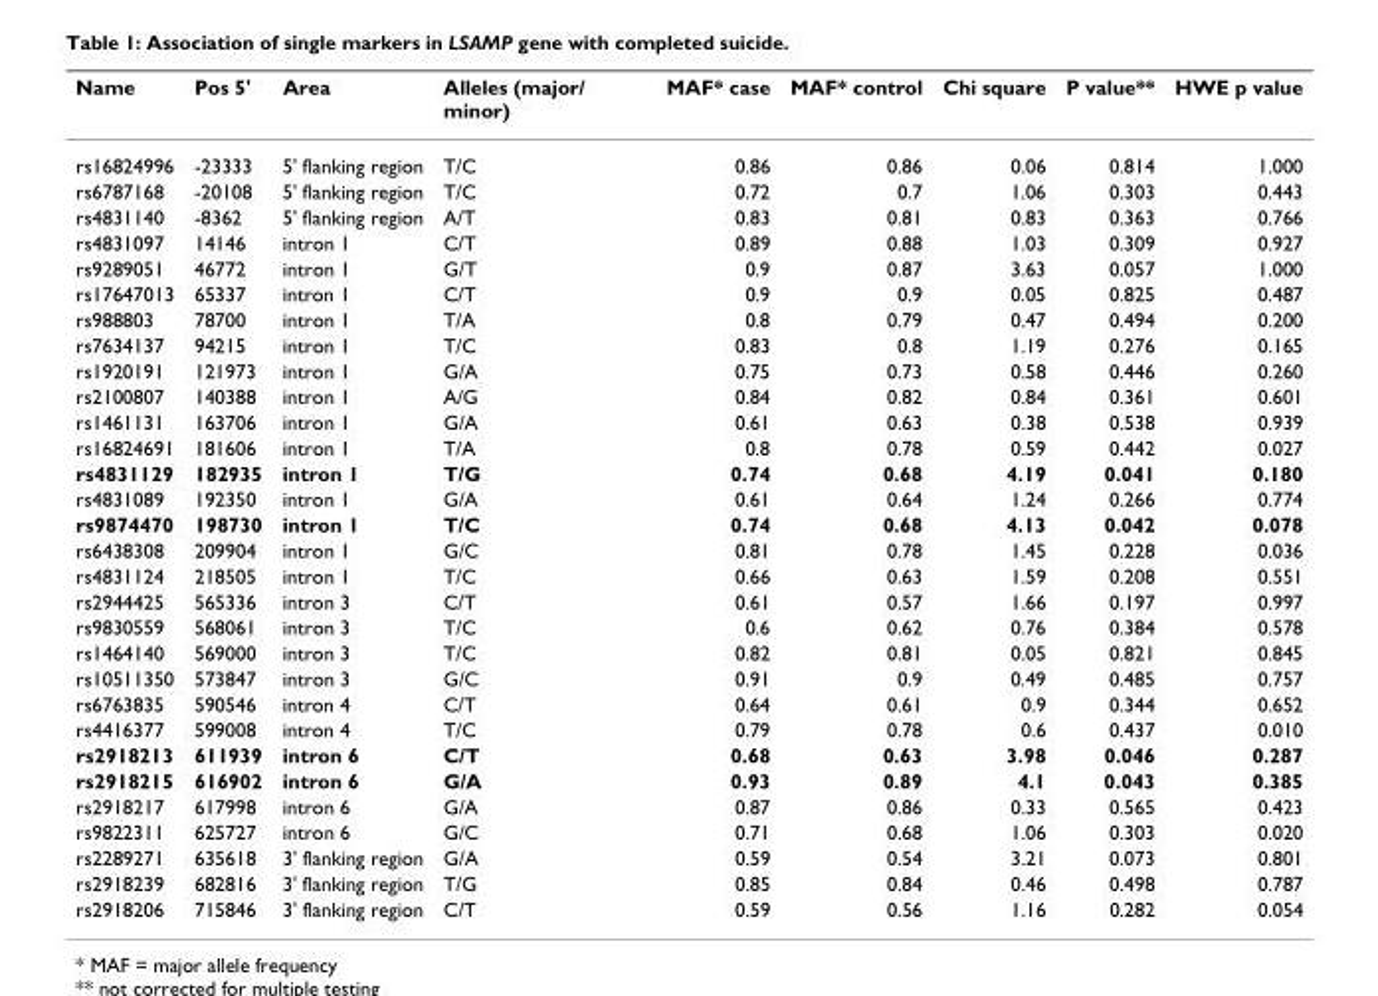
<table><thead><tr><td>Name</td><td>Pos 5&#x27;</td><td>Area</td><td>Alleles (major/ minor)</td><td>MAF* case</td><td>MAF* control</td><td>Chi square</td><td>P value**</td><td>HWE p value</td></tr></thead><tbody><tr><td>rs16824996</td><td>-23333</td><td>5&#x27; flanking region</td><td>T/C</td><td>0.86</td><td>0.86</td><td>0.06</td><td>0.814</td><td>1.000</td></tr><tr><td>rs6787168</td><td>-20108</td><td>5&#x27; flanking region</td><td>T/C</td><td>0.72</td><td>0.7</td><td>1.06</td><td>0.303</td><td>0.443</td></tr><tr><td>rs4831140</td><td>-8362</td><td>5&#x27; flanking region</td><td>A/T</td><td>0.83</td><td>0.81</td><td>0.83</td><td>0.363</td><td>0.766</td></tr><tr><td>rs4831097</td><td>14146</td><td>intron 1</td><td>C/T</td><td>0.89</td><td>0.88</td><td>1.03</td><td>0.309</td><td>0.927</td></tr><tr><td>rs9289051</td><td>46772</td><td>intron 1</td><td>G/T</td><td>0.9</td><td>0.87</td><td>3.63</td><td>0.057</td><td>1.000</td></tr><tr><td>rs17647013</td><td>65337</td><td>intron 1</td><td>C/T</td><td>0.9</td><td>0.9</td><td>0.05</td><td>0.825</td><td>0.487</td></tr><tr><td>rs988803</td><td>78700</td><td>intron 1</td><td>T/A</td><td>0.8</td><td>0.79</td><td>0.47</td><td>0.494</td><td>0.200</td></tr><tr><td>rs7634137</td><td>94215</td><td>intron 1</td><td>T/C</td><td>0.83</td><td>0.8</td><td>1.19</td><td>0.276</td><td>0.165</td></tr><tr><td>rs1920191</td><td>121973</td><td>intron 1</td><td>G/A</td><td>0.75</td><td>0.73</td><td>0.58</td><td>0.446</td><td>0.260</td></tr><tr><td>rs2100807</td><td>140388</td><td>intron 1</td><td>A/G</td><td>0.84</td><td>0.82</td><td>0.84</td><td>0.361</td><td>0.601</td></tr><tr><td>rs1461131</td><td>163706</td><td>intron 1</td><td>G/A</td><td>0.61</td><td>0.63</td><td>0.38</td><td>0.538</td><td>0.939</td></tr><tr><td>rs16824691</td><td>181606</td><td>intron 1</td><td>T/A</td><td>0.8</td><td>0.78</td><td>0.59</td><td>0.442</td><td>0.027</td></tr><tr><td>rs4831129</td><td>182935</td><td>intron 1</td><td>T/G</td><td>0.74</td><td>0.68</td><td>4.19</td><td>0.041</td><td>0.180</td></tr><tr><td>rs4831089</td><td>192350</td><td>intron 1</td><td>G/A</td><td>0.61</td><td>0.64</td><td>1.24</td><td>0.266</td><td>0.774</td></tr><tr><td>rs9874470</td><td>198730</td><td>intron 1</td><td>T/C</td><td>0.74</td><td>0.68</td><td>4.13</td><td>0.042</td><td>0.078</td></tr><tr><td>rs6438308</td><td>209904</td><td>intron 1</td><td>G/C</td><td>0.81</td><td>0.78</td><td>1.45</td><td>0.228</td><td>0.036</td></tr><tr><td>rs4831124</td><td>218505</td><td>intron 1</td><td>T/C</td><td>0.66</td><td>0.63</td><td>1.59</td><td>0.208</td><td>0.551</td></tr><tr><td>rs2944425</td><td>565336</td><td>intron 3</td><td>C/T</td><td>0.61</td><td>0.57</td><td>1.66</td><td>0.197</td><td>0.997</td></tr><tr><td>rs9830559</td><td>568061</td><td>intron 3</td><td>T/C</td><td>0.6</td><td>0.62</td><td>0.76</td><td>0.384</td><td>0.578</td></tr><tr><td>rs1464140</td><td>569000</td><td>intron 3</td><td>T/C</td><td>0.82</td><td>0.81</td><td>0.05</td><td>0.821</td><td>0.845</td></tr><tr><td>rs10511350</td><td>573847</td><td>intron 3</td><td>G/C</td><td>0.91</td><td>0.9</td><td>0.49</td><td>0.485</td><td>0.757</td></tr><tr><td>rs6763835</td><td>590546</td><td>intron 4</td><td>C/T</td><td>0.64</td><td>0.61</td><td>0.9</td><td>0.344</td><td>0.652</td></tr><tr><td>rs4416377</td><td>599008</td><td>intron 4</td><td>T/C</td><td>0.79</td><td>0.78</td><td>0.6</td><td>0.437</td><td>0.010</td></tr><tr><td>rs2918213</td><td>611939</td><td>intron 6</td><td>C/T</td><td>0.68</td><td>0.63</td><td>3.98</td><td>0.046</td><td>0.287</td></tr><tr><td>rs2918215</td><td>616902</td><td>intron 6</td><td>G/A</td><td>0.93</td><td>0.89</td><td>4.1</td><td>0.043</td><td>0.385</td></tr><tr><td>rs2918217</td><td>617998</td><td>intron 6</td><td>G/A</td><td>0.87</td><td>0.86</td><td>0.33</td><td>0.565</td><td>0.423</td></tr><tr><td>rs9822311</td><td>625727</td><td>intron 6</td><td>G/C</td><td>0.71</td><td>0.68</td><td>1.06</td><td>0.303</td><td>0.020</td></tr><tr><td>rs2289271</td><td>635618</td><td>3&#x27; flanking region</td><td>G/A</td><td>0.59</td><td>0.54</td><td>3.21</td><td>0.073</td><td>0.801</td></tr><tr><td>rs2918239</td><td>682816</td><td>3&#x27; flanking region</td><td>T/G</td><td>0.85</td><td>0.84</td><td>0.46</td><td>0.498</td><td>0.787</td></tr><tr><td>rs2918206</td><td>715846</td><td>3&#x27; flanking region</td><td>C/T</td><td>0.59</td><td>0.56</td><td>1.16</td><td>0.282</td><td>0.054</td></tr></tbody></table>